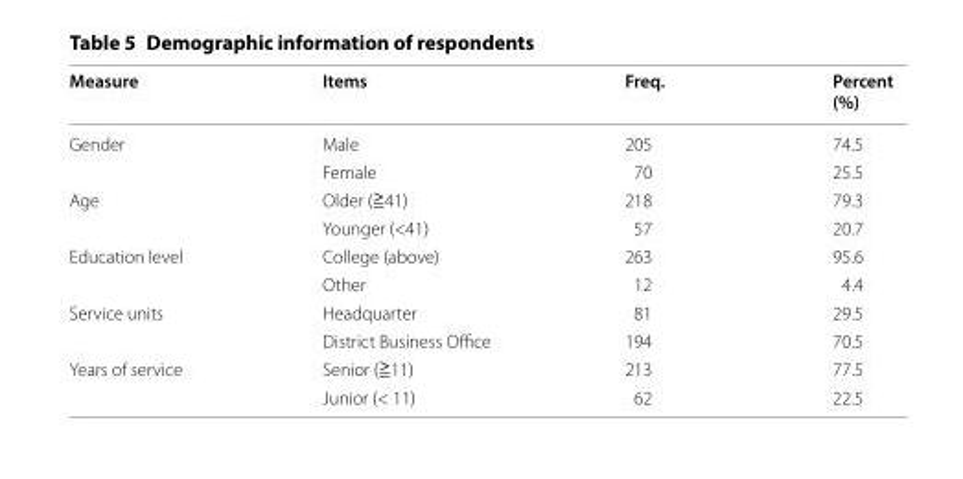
<table><thead><tr><td>Measure</td><td>Items</td><td>Freq.</td><td>Percent (%)</td></tr></thead><tbody><tr><td rowspan="2">Gender</td><td>Male</td><td>205</td><td>74.5</td></tr><tr><td>Female</td><td>70</td><td>25.5</td></tr><tr><td rowspan="2">Age</td><td>Older (≧41)</td><td>218</td><td>79.3</td></tr><tr><td>Younger (&lt;41)</td><td>57</td><td>20.7</td></tr><tr><td rowspan="2">Education level</td><td>College (above)</td><td>263</td><td>95.6</td></tr><tr><td>Other</td><td>12</td><td>4.4</td></tr><tr><td rowspan="2">Service units</td><td>Headquarter</td><td>81</td><td>29.5</td></tr><tr><td>District Business Office</td><td>194</td><td>70.5</td></tr><tr><td rowspan="2">Years of service</td><td>Senior (≧11)</td><td>213</td><td>77.5</td></tr><tr><td>Junior (&lt; 11)</td><td>62</td><td>22.5</td></tr></tbody></table>